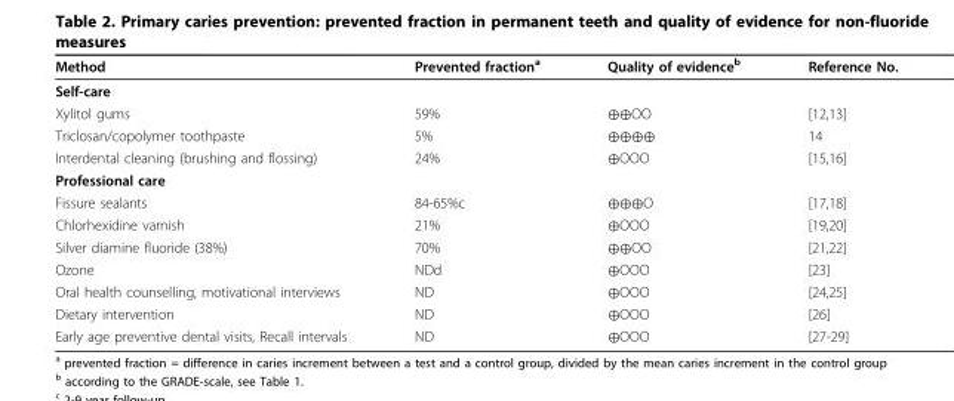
<table><thead><tr><td>Method</td><td>Prevented fraction<sup>a</sup></td><td>Quality of evidence<sup>b</sup></td><td>Reference No.</td></tr></thead><tbody><tr><td colspan="4">Self-care</td></tr><tr><td>Xylitol gums</td><td>59%</td><td>⊕⊕OO</td><td>[12,13]</td></tr><tr><td>Triclosan/copolymer toothpaste</td><td>5%</td><td>⊕⊕⊕⊕</td><td>14</td></tr><tr><td>Interdental cleaning (brushing and flossing)</td><td>24%</td><td>⊕OOO</td><td>[15,16]</td></tr><tr><td colspan="4">Professional care</td></tr><tr><td>Fissure sealants</td><td>84-65%c</td><td>⊕⊕⊕O</td><td>[17,18]</td></tr><tr><td>Chlorhexidine varnish</td><td>21%</td><td>⊕OOO</td><td>[19,20]</td></tr><tr><td>Silver diamine fluoride (38%)</td><td>70%</td><td>⊕⊕OO</td><td>[21,22]</td></tr><tr><td>Ozone</td><td>NDd</td><td>⊕OOO</td><td>[23]</td></tr><tr><td>Oral health counselling, motivational interviews</td><td>ND</td><td>⊕OOO</td><td>[24,25]</td></tr><tr><td>Dietary intervention</td><td>ND</td><td>⊕OOO</td><td>[26]</td></tr><tr><td>Early age preventive dental visits, Recall intervals</td><td>ND</td><td>⊕OOO</td><td>[27-29]</td></tr></tbody></table>